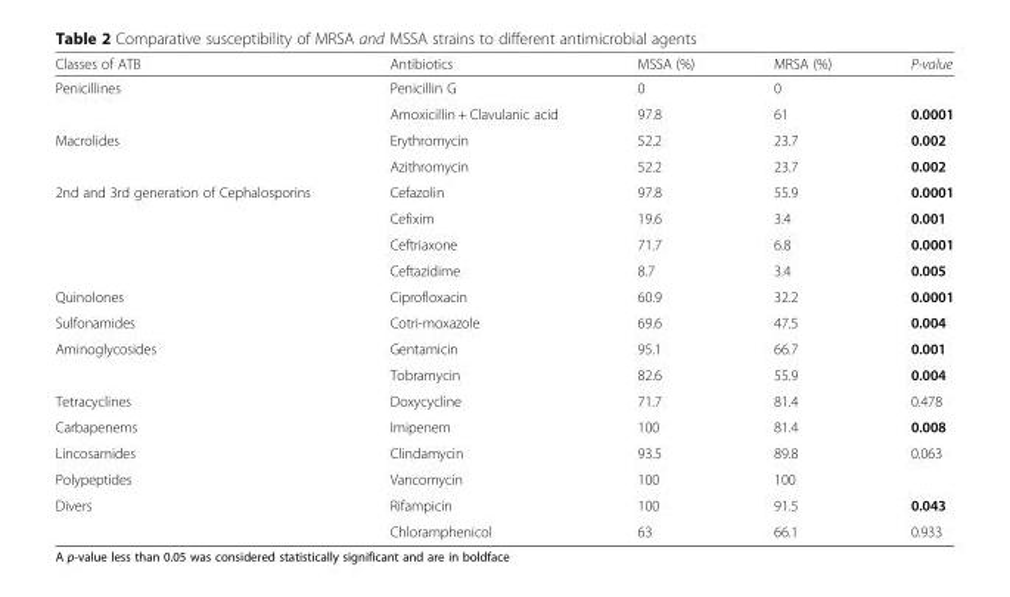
<table><thead><tr><td>Classes of ATB</td><td>Antibiotics</td><td>MSSA (%)</td><td>MRSA (%)</td><td>P-value</td></tr></thead><tbody><tr><td rowspan="2">Penicillines</td><td>Penicillin G</td><td>0</td><td>0</td><td></td></tr><tr><td>Amoxicillin + Clavulanic acid</td><td>97.8</td><td>61</td><td>0.0001</td></tr><tr><td rowspan="2">Macrolides</td><td>Erythromycin</td><td>52.2</td><td>23.7</td><td>0.002</td></tr><tr><td>Azithromycin</td><td>52.2</td><td>23.7</td><td>0.002</td></tr><tr><td rowspan="4">2nd and 3rd generation of Cephalosporins</td><td>Cefazolin</td><td>97.8</td><td>55.9</td><td>0.0001</td></tr><tr><td>Cefixim</td><td>19.6</td><td>3.4</td><td>0.001</td></tr><tr><td>Ceftriaxone</td><td>71.7</td><td>6.8</td><td>0.0001</td></tr><tr><td>Ceftazidime</td><td>8.7</td><td>3.4</td><td>0.005</td></tr><tr><td>Quinolones</td><td>Ciprofloxacin</td><td>60.9</td><td>32.2</td><td>0.0001</td></tr><tr><td>Sulfonamides</td><td>Cotri-moxazole</td><td>69.6</td><td>47.5</td><td>0.004</td></tr><tr><td rowspan="2">Aminoglycosides</td><td>Gentamicin</td><td>95.1</td><td>66.7</td><td>0.001</td></tr><tr><td>Tobramycin</td><td>82.6</td><td>55.9</td><td>0.004</td></tr><tr><td>Tetracyclines</td><td>Doxycycline</td><td>71.7</td><td>81.4</td><td>0.478</td></tr><tr><td>Carbapenems</td><td>Imipenem</td><td>100</td><td>81.4</td><td>0.008</td></tr><tr><td>Lincosamides</td><td>Clindamycin</td><td>93.5</td><td>89.8</td><td>0.063</td></tr><tr><td>Polypeptides</td><td>Vancomycin</td><td>100</td><td>100</td><td></td></tr><tr><td rowspan="2">Divers</td><td>Rifampicin</td><td>100</td><td>91.5</td><td>0.043</td></tr><tr><td>Chloramphenicol</td><td>63</td><td>66.1</td><td>0.933</td></tr></tbody></table>